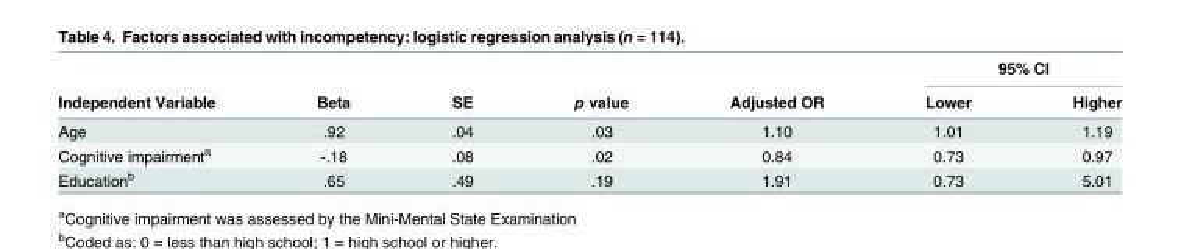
<table><thead><tr><td rowspan="2">Independent Variable</td><td rowspan="2">Beta</td><td rowspan="2">SE</td><td rowspan="2">p value</td><td rowspan="2">Adjusted OR</td><td colspan="2">95% CI</td></tr><tr><td>Lower</td><td>Higher</td></tr></thead><tbody><tr><td>Age</td><td>.92</td><td>.04</td><td>.03</td><td>1.10</td><td>1.01</td><td>1.19</td></tr><tr><td>Cognitive impairment<sup>a</sup></td><td>-.18</td><td>.08</td><td>.02</td><td>0.84</td><td>0.73</td><td>0.97</td></tr><tr><td>Education<sup>b</sup></td><td>.65</td><td>.49</td><td>.19</td><td>1.91</td><td>0.73</td><td>5.01</td></tr></tbody></table>